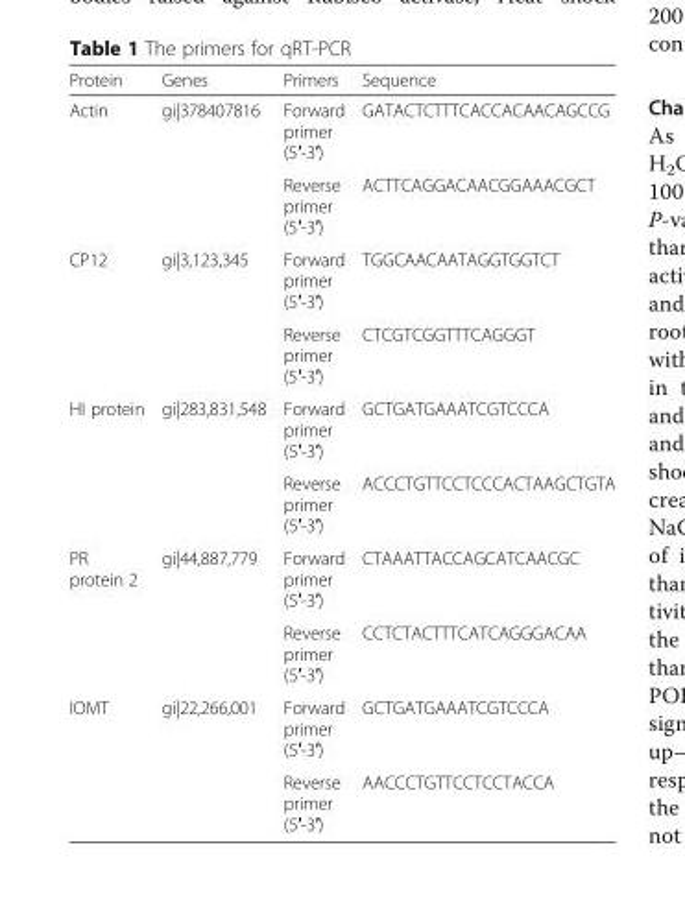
<table><thead><tr><td>Protein</td><td>Genes</td><td>Primers</td><td>Sequence</td></tr></thead><tbody><tr><td rowspan="2">Actin</td><td>gi|378407816</td><td>Forward primer (5′-3′)</td><td>GATACTCTTTCACCACAACAGCCG</td></tr><tr><td></td><td>Reverse primer (5′-3′)</td><td>ACTTCAGGACAACGGAAACGCT</td></tr><tr><td rowspan="2">CP12</td><td>gi|3,123,345</td><td>Forward primer (5′-3′)</td><td>TGGCAACAATAGGTGGTCT</td></tr><tr><td></td><td>Reverse primer (5′-3′)</td><td>CTCGTCGGTTTCAGGGT</td></tr><tr><td rowspan="2">HI protein</td><td>gi|283,831,548</td><td>Forward primer (5′-3′)</td><td>GCTGATGAAATCGTCCCA</td></tr><tr><td></td><td>Reverse primer (5′-3′)</td><td>ACCCTGTTCCTCCCACTAAGCTGTA</td></tr><tr><td rowspan="2">PR protein 2</td><td>gi|44,887,779</td><td>Forward primer (5′-3′)</td><td>CTAAATTACCAGCATCAACGC</td></tr><tr><td></td><td>Reverse primer (5′-3′)</td><td>CCTCTACTTTCATCAGGGACAA</td></tr><tr><td rowspan="2">IOMT</td><td>gi|22,266,001</td><td>Forward primer (5′-3′)</td><td>GCTGATGAAATCGTCCCA</td></tr><tr><td></td><td>Reverse primer (5′-3′)</td><td>AACCCTGTTCCTCCTACCA</td></tr></tbody></table>